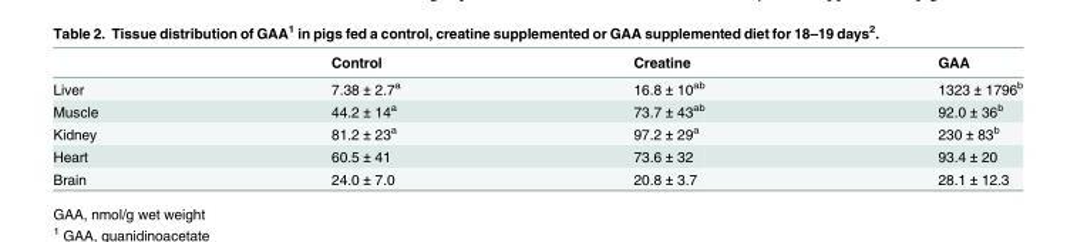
<table><thead><tr><td></td><td>Control</td><td>Creatine</td><td>GAA</td></tr></thead><tbody><tr><td>Liver</td><td>7.38 ± 2.7<sup>a</sup></td><td>16.8 ± 10<sup>ab</sup></td><td>1323 ± 1796<sup>b</sup></td></tr><tr><td>Muscle</td><td>44.2 ± 14<sup>a</sup></td><td>73.7 ± 43<sup>ab</sup></td><td>92.0 ± 36<sup>b</sup></td></tr><tr><td>Kidney</td><td>81.2 ± 23<sup>a</sup></td><td>97.2 ± 29<sup>a</sup></td><td>230 ± 83<sup>b</sup></td></tr><tr><td>Heart</td><td>60.5 ± 41</td><td>73.6 ± 32</td><td>93.4 ± 20</td></tr><tr><td>Brain</td><td>24.0 ± 7.0</td><td>20.8 ± 3.7</td><td>28.1 ± 12.3</td></tr></tbody></table>